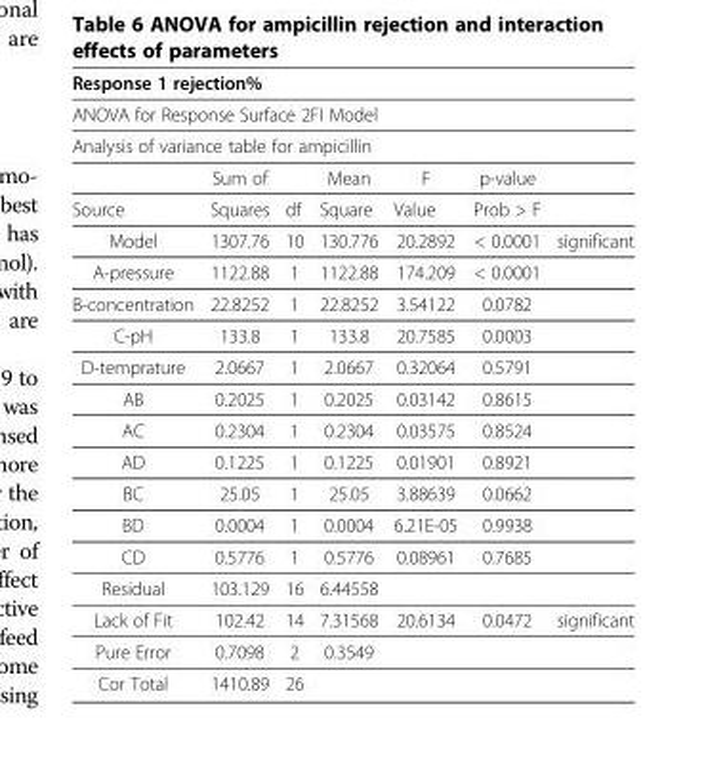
<table><thead><tr><td rowspan="3" colspan="7">Response 1 rejection% ANOVA for Response Surface 2FI Model Analysis of variance table for ampicillin</td></tr><tr></tr><tr></tr><tr><td></td><td>Sum of</td><td></td><td>Mean</td><td>F</td><td>p-value</td><td></td></tr></thead><tbody><tr><td>Source</td><td>Squares</td><td>df</td><td>Square</td><td>Value</td><td>Prob &gt; F</td><td></td></tr><tr><td>Model</td><td>1307.76</td><td>10</td><td>130.776</td><td>20.2892</td><td>&lt; 0.0001</td><td>significant</td></tr><tr><td>A-pressure</td><td>1122.88</td><td>1</td><td>1122.88</td><td>174.209</td><td>&lt; 0.0001</td><td></td></tr><tr><td>B-concentration</td><td>22.8252</td><td>1</td><td>22.8252</td><td>3.54122</td><td>0.0782</td><td></td></tr><tr><td>C-pH</td><td>133.8</td><td>1</td><td>133.8</td><td>20.7585</td><td>0.0003</td><td></td></tr><tr><td>D-temprature</td><td>2.0667</td><td>1</td><td>2.0667</td><td>0.32064</td><td>0.5791</td><td></td></tr><tr><td>AB</td><td>0.2025</td><td>1</td><td>0.2025</td><td>0.03142</td><td>0.8615</td><td></td></tr><tr><td>AC</td><td>0.2304</td><td>1</td><td>0.2304</td><td>0.03575</td><td>0.8524</td><td></td></tr><tr><td>AD</td><td>0.1225</td><td>1</td><td>0.1225</td><td>0.01901</td><td>0.8921</td><td></td></tr><tr><td>BC</td><td>25.05</td><td>1</td><td>25.05</td><td>3.88639</td><td>0.0662</td><td></td></tr><tr><td>BD</td><td>0.0004</td><td>1</td><td>0.0004</td><td>6.21E-05</td><td>0.9938</td><td></td></tr><tr><td>CD</td><td>0.5776</td><td>1</td><td>0.5776</td><td>0.08961</td><td>0.7685</td><td></td></tr><tr><td>Residual</td><td>103.129</td><td>16</td><td>6.44558</td><td></td><td></td><td></td></tr><tr><td>Lack of Fit</td><td>102.42</td><td>14</td><td>7.31568</td><td>20.6134</td><td>0.0472</td><td>significant</td></tr><tr><td>Pure Error</td><td>0.7098</td><td>2</td><td>0.3549</td><td></td><td></td><td></td></tr><tr><td>Cor Total</td><td>1410.89</td><td>26</td><td></td><td></td><td></td><td></td></tr></tbody></table>